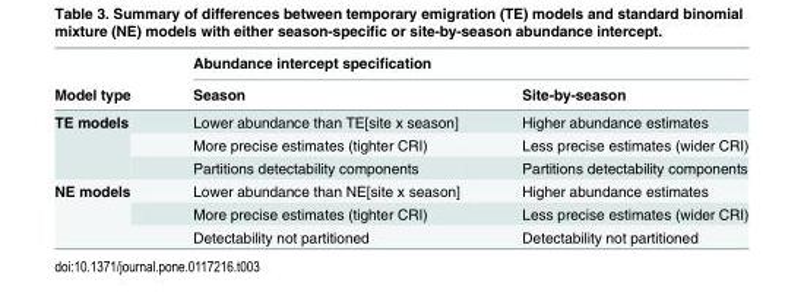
<table><thead><tr><td rowspan="2">Model type</td><td colspan="2">Abundance intercept specification</td></tr><tr><td>Season</td><td>Site-by-season</td></tr></thead><tbody><tr><td rowspan="3">TE models</td><td>Lower abundance than TE[site x season]</td><td>Higher abundance estimates</td></tr><tr><td>More precise estimates (tighter CRI)</td><td>Less precise estimates (wider CRI)</td></tr><tr><td>Partitions detectability components</td><td>Partitions detectability components</td></tr><tr><td rowspan="3">NE models</td><td>Lower abundance than NE[site x season]</td><td>Higher abundance estimates</td></tr><tr><td>More precise estimates (tighter CRI)</td><td>Less precise estimates (wider CRI)</td></tr><tr><td>Detectability not partitioned</td><td>Detectability not partitioned</td></tr></tbody></table>